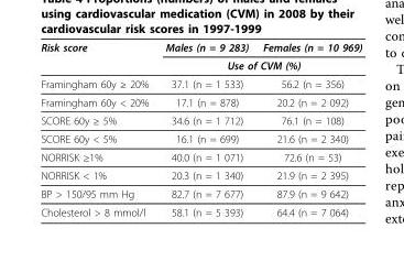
<table><thead><tr><td rowspan="2">Risk score</td><td>Males (n = 9 283)</td><td>Females (n = 10 969)</td></tr><tr><td colspan="2">Use of CVM (%)</td></tr></thead><tbody><tr><td>Framingham 60y ≥ 20%</td><td>37.1 (n = 1 533)</td><td>56.2 (n = 356)</td></tr><tr><td>Framingham 60y &lt; 20%</td><td>17.1 (n = 878)</td><td>20.2 (n = 2 092)</td></tr><tr><td>SCORE 60y ≥ 5%</td><td>34.6 (n = 1 712)</td><td>76.1 (n = 108)</td></tr><tr><td>SCORE 60y &lt; 5%</td><td>16.1 (n = 699)</td><td>21.6 (n = 2 340)</td></tr><tr><td>NORRISK ≥1%</td><td>40.0 (n = 1 071)</td><td>72.6 (n = 53)</td></tr><tr><td>NORRISK &lt; 1%</td><td>20.3 (n = 1 340)</td><td>21.9 (n = 2 395)</td></tr><tr><td>BP &gt; 150/95 mm Hg</td><td>82.7 (n = 7 677)</td><td>87.9 (n = 9 642)</td></tr><tr><td>Cholesterol &gt; 8 mmol/l</td><td>58.1 (n = 5 393)</td><td>64.4 (n = 7 064)</td></tr></tbody></table>